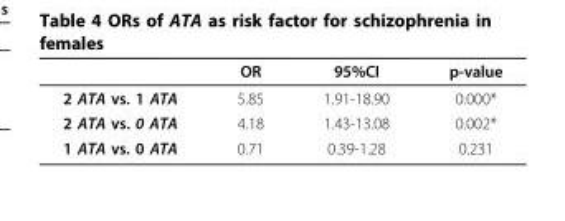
<table><thead><tr><td></td><td>OR</td><td>95%CI</td><td>p-value</td></tr></thead><tbody><tr><td>2 ATA vs. 1 ATA</td><td>5.85</td><td>1.91-18.90</td><td>0.000*</td></tr><tr><td>2 ATA vs. 0 ATA</td><td>4.18</td><td>1.43-13.08</td><td>0.002*</td></tr><tr><td>1 ATA vs. 0 ATA</td><td>0.71</td><td>0.39-1.28</td><td>0.231</td></tr></tbody></table>